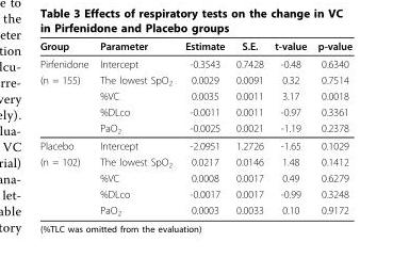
<table><thead><tr><td>Group</td><td>Parameter</td><td>Estimate</td><td>S.E.</td><td>t-value</td><td>p-value</td></tr></thead><tbody><tr><td>Pirfenidone</td><td>Intercept</td><td>-0.3543</td><td>0.7428</td><td>-0.48</td><td>0.6340</td></tr><tr><td rowspan="4">(n = 155)</td><td>The lowest SpO<sub>2</sub></td><td>0.0029</td><td>0.0091</td><td>0.32</td><td>0.7514</td></tr><tr><td>%VC</td><td>0.0035</td><td>0.0011</td><td>3.17</td><td>0.0018</td></tr><tr><td>%DLco</td><td>-0.0011</td><td>0.0011</td><td>-0.97</td><td>0.3361</td></tr><tr><td>PaO<sub>2</sub></td><td>-0.0025</td><td>0.0021</td><td>-1.19</td><td>0.2378</td></tr><tr><td>Placebo</td><td>Intercept</td><td>-2.0951</td><td>1.2726</td><td>-1.65</td><td>0.1029</td></tr><tr><td rowspan="4">(n = 102)</td><td>The lowest SpO<sub>2</sub></td><td>0.0217</td><td>0.0146</td><td>1.48</td><td>0.1412</td></tr><tr><td>%VC</td><td>0.0008</td><td>0.0017</td><td>0.49</td><td>0.6279</td></tr><tr><td>%DLco</td><td>-0.0017</td><td>0.0017</td><td>-0.99</td><td>0.3248</td></tr><tr><td>PaO<sub>2</sub></td><td>0.0003</td><td>0.0033</td><td>0.10</td><td>0.9172</td></tr></tbody></table>